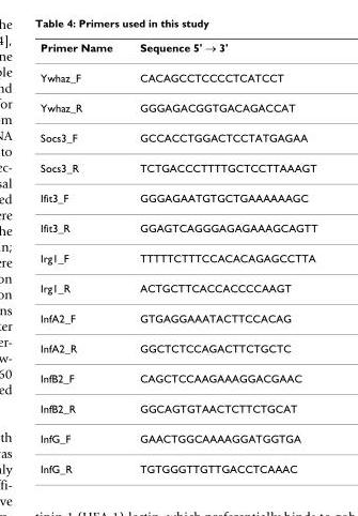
<table><thead><tr><td>Primer Name</td><td>Sequence 5&#x27; → 3&#x27;</td></tr></thead><tbody><tr><td>Ywhaz_F</td><td>CACAGCCTCCCCTCATCCT</td></tr><tr><td>Ywhaz_R</td><td>GGGAGACGGTGACAGACCAT</td></tr><tr><td>Socs3_F</td><td>GCCACCTGGACTCCTATGAGAA</td></tr><tr><td>Socs3_R</td><td>TCTGACCCTTTTGCTCCTTAAAGT</td></tr><tr><td>Ifit3_F</td><td>GGGAGAATGTGCTGAAAAAAGC</td></tr><tr><td>Ifit3_R</td><td>GGAGTCAGGGAGAGAAAGCAGTT</td></tr><tr><td>Irg1_F</td><td>TTTTTCTTTCCACACAGAGCCTTA</td></tr><tr><td>Irg1_R</td><td>ACTGCTTCACCACCCCAAGT</td></tr><tr><td>InfA2_F</td><td>GTGAGGAAATACTTCCACAG</td></tr><tr><td>InfA2_R</td><td>GGCTCTCCAGACTTCTGCTC</td></tr><tr><td>InfB2_F</td><td>CAGCTCCAAGAAAGGACGAAC</td></tr><tr><td>InfB2_R</td><td>GGCAGTGTAACTCTTCTGCAT</td></tr><tr><td>InfG_F</td><td>GAACTGGCAAAAGGATGGTGA</td></tr><tr><td>InfG_R</td><td>TGTGGGTTGTTGACCTCAAAC</td></tr></tbody></table>